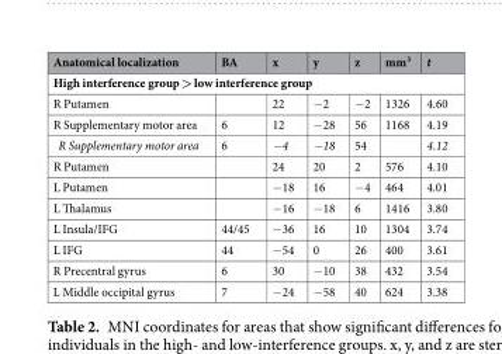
<table><thead><tr><td>Anatomical localization</td><td>BA</td><td>x</td><td>y</td><td>z</td><td>mm<sup>3</sup></td><td>t</td></tr></thead><tbody><tr><td colspan="7">High interference group &gt; low interference group</td></tr><tr><td>R Putamen</td><td></td><td>22</td><td>−2</td><td>−2</td><td>1326</td><td>4.60</td></tr><tr><td>R Supplementary motor area</td><td>6</td><td>12</td><td>−28</td><td>56</td><td>1168</td><td>4.19</td></tr><tr><td>R Supplementary motor area</td><td>6</td><td>−4</td><td>−18</td><td>54</td><td></td><td>4.12</td></tr><tr><td>R Putamen</td><td></td><td>24</td><td>20</td><td>2</td><td>576</td><td>4.10</td></tr><tr><td>L Putamen</td><td></td><td>−18</td><td>16</td><td>−4</td><td>464</td><td>4.01</td></tr><tr><td>L Thalamus</td><td></td><td>−16</td><td>−18</td><td>6</td><td>1416</td><td>3.80</td></tr><tr><td>L Insula/IFG</td><td>44/45</td><td>−36</td><td>16</td><td>10</td><td>1304</td><td>3.74</td></tr><tr><td>L IFG</td><td>44</td><td>−54</td><td>0</td><td>26</td><td>400</td><td>3.61</td></tr><tr><td>R Precentral gyrus</td><td>6</td><td>30</td><td>−10</td><td>38</td><td>432</td><td>3.54</td></tr><tr><td>L Middle occipital gyrus</td><td>7</td><td>−24</td><td>−58</td><td>40</td><td>624</td><td>3.38</td></tr></tbody></table>